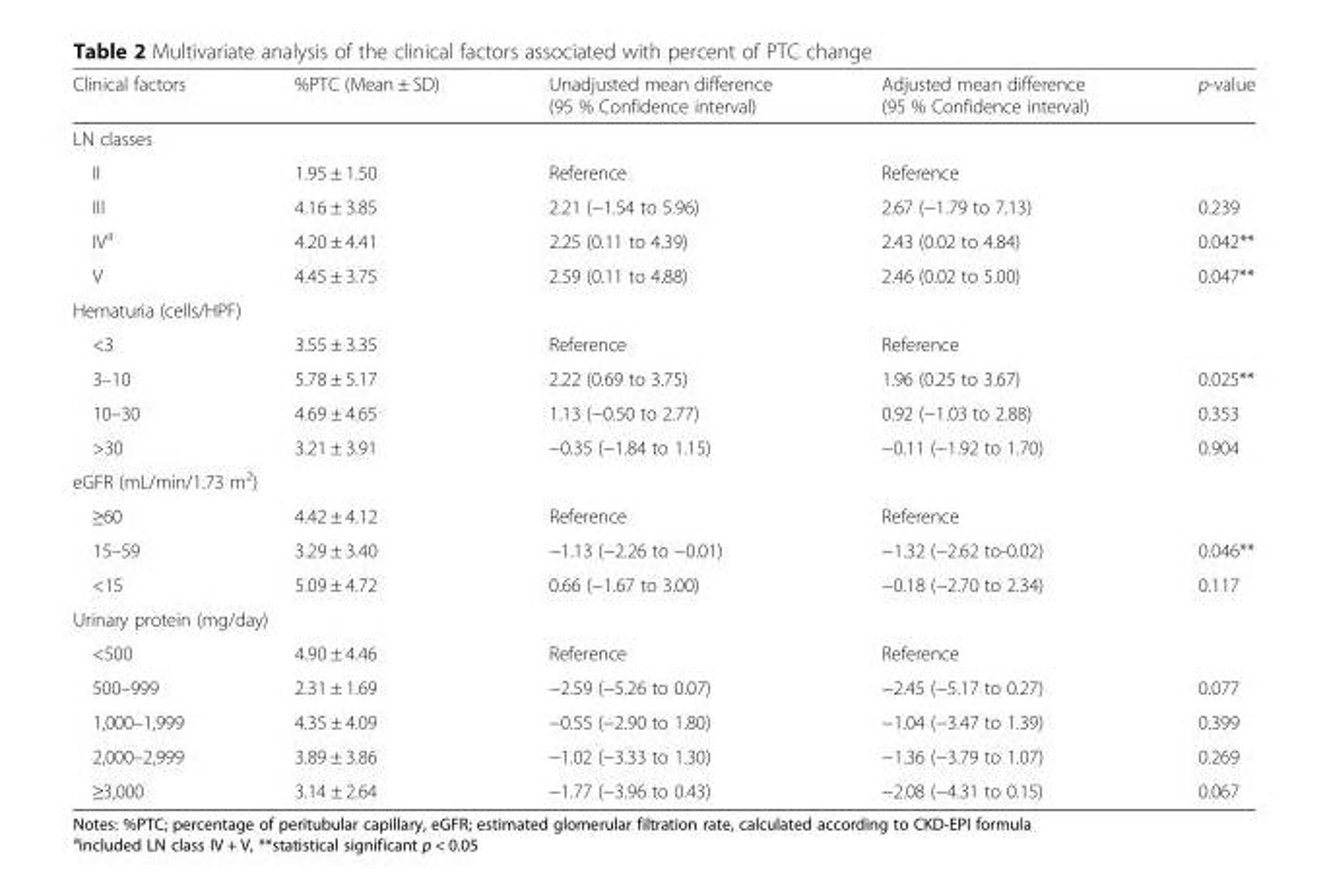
<table><thead><tr><td>Clinical factors</td><td>%PTC (Mean ± SD)</td><td>Unadjusted mean difference (95 % Confidence interval)</td><td>Adjusted mean difference (95 % Confidence interval)</td><td>p-value</td></tr></thead><tbody><tr><td colspan="5">LN classes</td></tr><tr><td>II</td><td>1.95 ± 1.50</td><td>Reference</td><td>Reference</td><td></td></tr><tr><td>III</td><td>4.16 ± 3.85</td><td>2.21 (−1.54 to 5.96)</td><td>2.67 (−1.79 to 7.13)</td><td>0.239</td></tr><tr><td>IV<sup>a</sup></td><td>4.20 ± 4.41</td><td>2.25 (0.11 to 4.39)</td><td>2.43 (0.02 to 4.84)</td><td>0.042**</td></tr><tr><td>V</td><td>4.45 ± 3.75</td><td>2.59 (0.11 to 4.88)</td><td>2.46 (0.02 to 5.00)</td><td>0.047**</td></tr><tr><td colspan="5">Hematuria (cells/HPF)</td></tr><tr><td>&lt;3</td><td>3.55 ± 3.35</td><td>Reference</td><td>Reference</td><td></td></tr><tr><td>3–10</td><td>5.78 ± 5.17</td><td>2.22 (0.69 to 3.75)</td><td>1.96 (0.25 to 3.67)</td><td>0.025**</td></tr><tr><td>10–30</td><td>4.69 ± 4.65</td><td>1.13 (−0.50 to 2.77)</td><td>0.92 (−1.03 to 2.88)</td><td>0.353</td></tr><tr><td>&gt;30</td><td>3.21 ± 3.91</td><td>−0.35 (−1.84 to 1.15)</td><td>−0.11 (−1.92 to 1.70)</td><td>0.904</td></tr><tr><td colspan="5">eGFR (mL/min/1.73 m<sup>2</sup>)</td></tr><tr><td>≥60</td><td>4.42 ± 4.12</td><td>Reference</td><td>Reference</td><td></td></tr><tr><td>15–59</td><td>3.29 ± 3.40</td><td>−1.13 (−2.26 to −0.01)</td><td>−1.32 (−2.62 to-0.02)</td><td>0.046**</td></tr><tr><td>&lt;15</td><td>5.09 ± 4.72</td><td>0.66 (−1.67 to 3.00)</td><td>−0.18 (−2.70 to 2.34)</td><td>0.117</td></tr><tr><td colspan="5">Urinary protein (mg/day)</td></tr><tr><td>&lt;500</td><td>4.90 ± 4.46</td><td>Reference</td><td>Reference</td><td></td></tr><tr><td>500–999</td><td>2.31 ± 1.69</td><td>−2.59 (−5.26 to 0.07)</td><td>−2.45 (−5.17 to 0.27)</td><td>0.077</td></tr><tr><td>1,000–1,999</td><td>4.35 ± 4.09</td><td>−0.55 (−2.90 to 1.80)</td><td>−1.04 (−3.47 to 1.39)</td><td>0.399</td></tr><tr><td>2,000–2,999</td><td>3.89 ± 3.86</td><td>−1.02 (−3.33 to 1.30)</td><td>−1.36 (−3.79 to 1.07)</td><td>0.269</td></tr><tr><td>≥3,000</td><td>3.14 ± 2.64</td><td>−1.77 (−3.96 to 0.43)</td><td>−2.08 (−4.31 to 0.15)</td><td>0.067</td></tr></tbody></table>